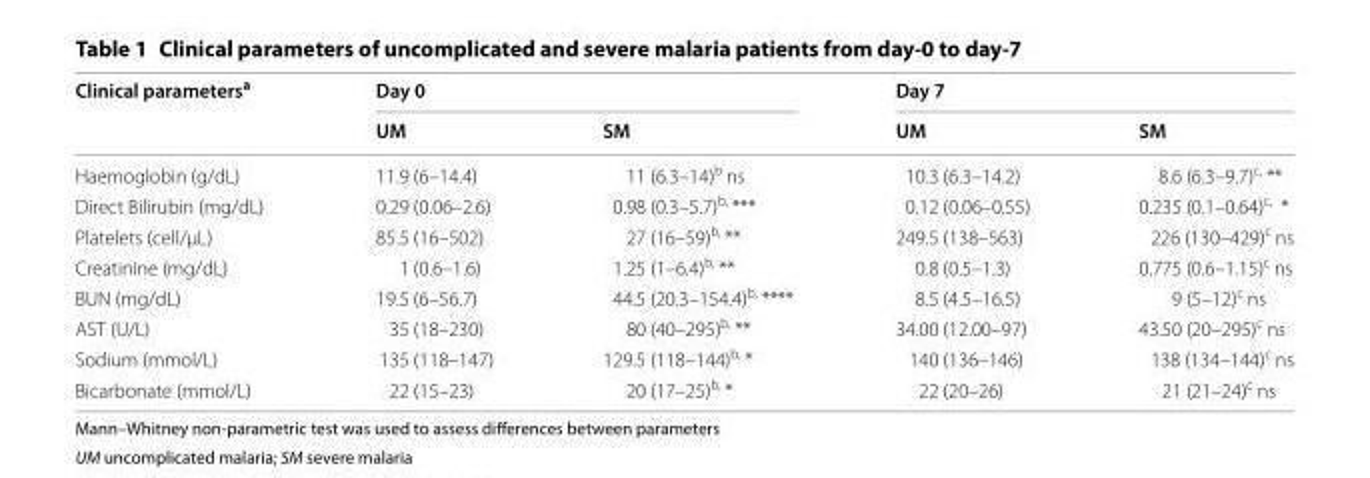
<table><thead><tr><td rowspan="2">Clinical parameters<sup>a</sup></td><td colspan="2">Day 0</td><td colspan="2">Day 7</td></tr><tr><td>UM</td><td>SM</td><td>UM</td><td>SM</td></tr></thead><tbody><tr><td>Haemoglobin (g/dL)</td><td>11.9 (6–14.4)</td><td>11 (6.3–14)<sup>b</sup> ns</td><td>10.3 (6.3–14.2)</td><td>8.6 (6.3–9.7)<sup>c,</sup> **</td></tr><tr><td>Direct Bilirubin (mg/dL)</td><td>0.29 (0.06–2.6)</td><td>0.98 (0.3–5.7)<sup>b,</sup> ***</td><td>0.12 (0.06–0.55)</td><td>0.235 (0.1–0.64)<sup>c,</sup> *</td></tr><tr><td>Platelets (cell/μL)</td><td>85.5 (16–502)</td><td>27 (16–59)<sup>b,</sup> **</td><td>249.5 (138–563)</td><td>226 (130–429)<sup>c</sup> ns</td></tr><tr><td>Creatinine (mg/dL)</td><td>1 (0.6–1.6)</td><td>1.25 (1–6.4)<sup>b,</sup> **</td><td>0.8 (0.5–1.3)</td><td>0.775 (0.6–1.15)<sup>c</sup> ns</td></tr><tr><td>BUN (mg/dL)</td><td>19.5 (6–56.7)</td><td>44.5 (20.3–154.4)<sup>b,</sup> ****</td><td>8.5 (4.5–16.5)</td><td>9 (5–12)<sup>c</sup> ns</td></tr><tr><td>AST (U/L)</td><td>35 (18–230)</td><td>80 (40–295)<sup>b,</sup> **</td><td>34.00 (12.00–97)</td><td>43.50 (20–295)<sup>c</sup> ns</td></tr><tr><td>Sodium (mmol/L)</td><td>135 (118–147)</td><td>129.5 (118–144)<sup>b,</sup> *</td><td>140 (136–146)</td><td>138 (134–144)<sup>c</sup> ns</td></tr><tr><td>Bicarbonate (mmol/L)</td><td>22 (15–23)</td><td>20 (17–25)<sup>b,</sup> *</td><td>22 (20–26)</td><td>21 (21–24)<sup>c</sup> ns</td></tr></tbody></table>